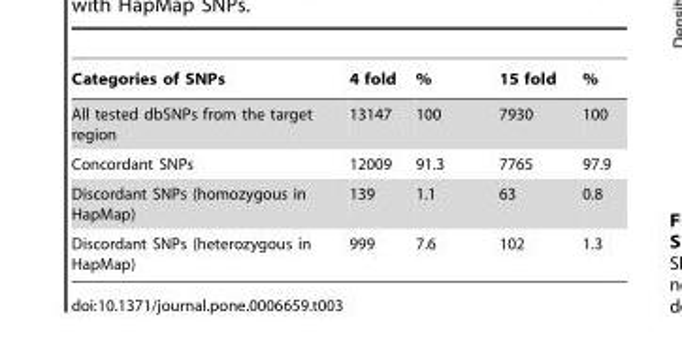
<table><thead><tr><td>Categories of SNPs</td><td>4 fold</td><td>%</td><td>15 fold</td><td>%</td></tr></thead><tbody><tr><td>All tested dbSNPs from the target region</td><td>13147</td><td>100</td><td>7930</td><td>100</td></tr><tr><td>Concordant SNPs</td><td>12009</td><td>91.3</td><td>7765</td><td>97.9</td></tr><tr><td>Discordant SNPs (homozygous in HapMap)</td><td>139</td><td>1.1</td><td>63</td><td>0.8</td></tr><tr><td>Discordant SNPs (heterozygous in HapMap)</td><td>999</td><td>7.6</td><td>102</td><td>1.3</td></tr></tbody></table>